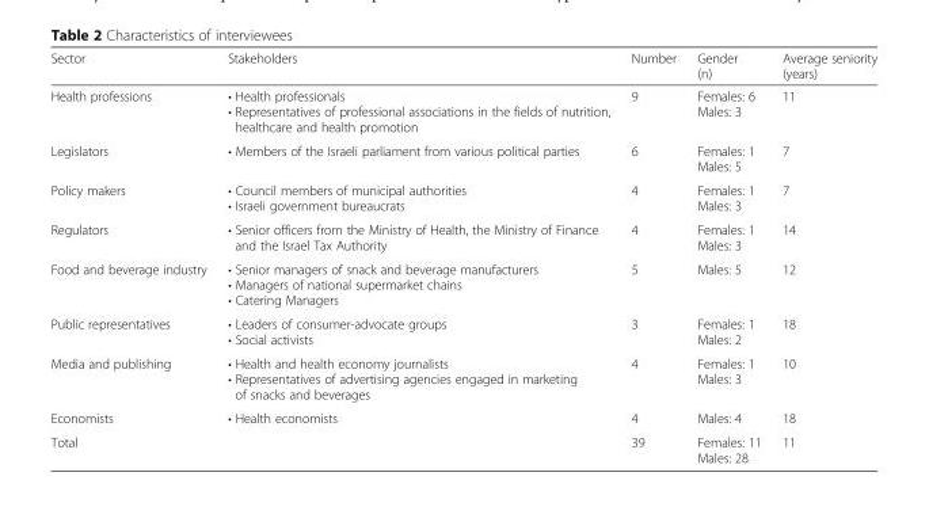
<table><thead><tr><td>Sector</td><td>Stakeholders</td><td>Number</td><td>Gender (n)</td><td>Average seniority (years)</td></tr></thead><tbody><tr><td>Health professions</td><td>• Health professionals • Representatives of professional associations in the fields of nutrition, healthcare and health promotion</td><td>9</td><td>Females: 6 Males: 3</td><td>11</td></tr><tr><td>Legislators</td><td>• Members of the Israeli parliament from various political parties</td><td>6</td><td>Females: 1 Males: 5</td><td>7</td></tr><tr><td>Policy makers</td><td>• Council members of municipal authorities • Israeli government bureaucrats</td><td>4</td><td>Females: 1 Males: 3</td><td>7</td></tr><tr><td>Regulators</td><td>• Senior officers from the Ministry of Health, the Ministry of Finance and the Israel Tax Authority</td><td>4</td><td>Females: 1 Males: 3</td><td>14</td></tr><tr><td>Food and beverage industry</td><td>• Senior managers of snack and beverage manufacturers • Managers of national supermarket chains • Catering Managers</td><td>5</td><td>Males: 5</td><td>12</td></tr><tr><td>Public representatives</td><td>• Leaders of consumer-advocate groups • Social activists</td><td>3</td><td>Females: 1 Males: 2</td><td>18</td></tr><tr><td>Media and publishing</td><td>• Health and health economy journalists • Representatives of advertising agencies engaged in marketing of snacks and beverages</td><td>4</td><td>Females: 1 Males: 3</td><td>10</td></tr><tr><td>Economists</td><td>• Health economists</td><td>4</td><td>Males: 4</td><td>18</td></tr><tr><td>Total</td><td></td><td>39</td><td>Females: 11 Males: 28</td><td>11</td></tr></tbody></table>